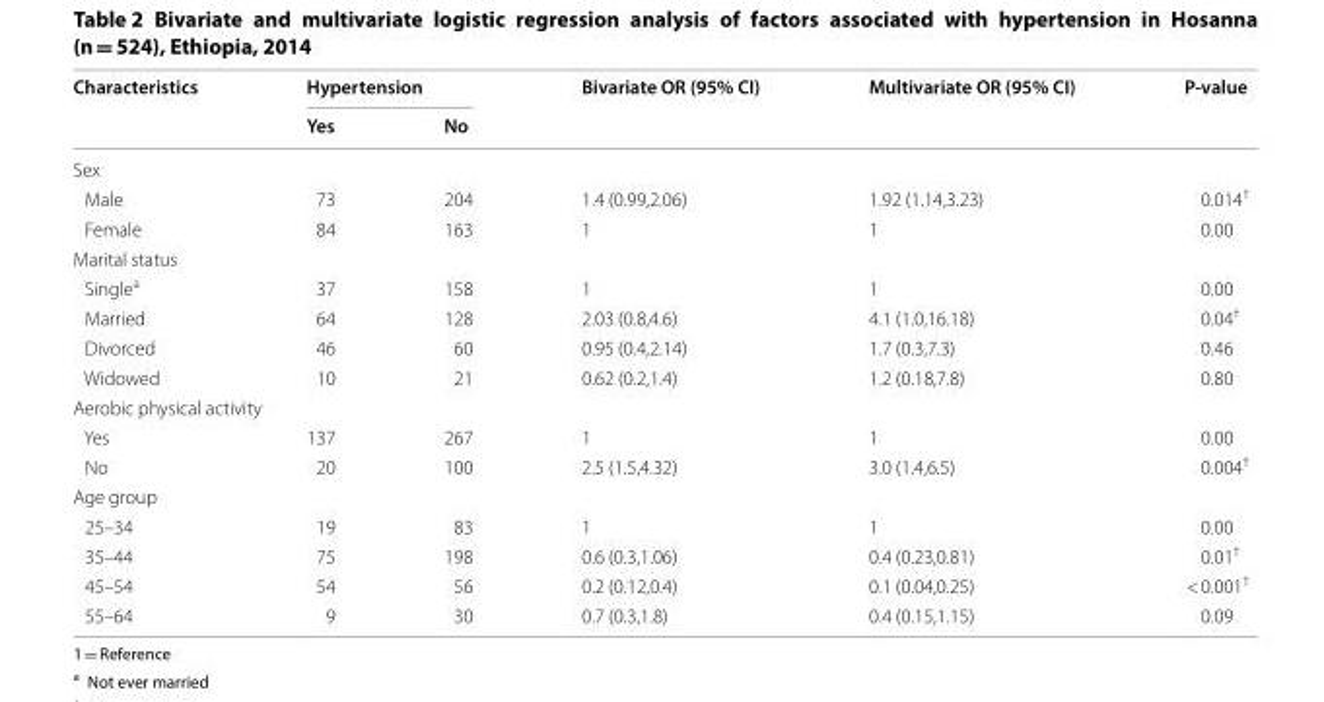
<table><thead><tr><td rowspan="2">Characteristics</td><td colspan="2">Hypertension</td><td rowspan="2">Bivariate OR (95% CI)</td><td rowspan="2">Multivariate OR (95% CI)</td><td rowspan="2">P-value</td></tr><tr><td>Yes</td><td>No</td></tr></thead><tbody><tr><td colspan="6">Sex</td></tr><tr><td>Male</td><td>73</td><td>204</td><td>1.4 (0.99,2.06)</td><td>1.92 (1.14,3.23)</td><td>0.014<sup>†</sup></td></tr><tr><td>Female</td><td>84</td><td>163</td><td>1</td><td>1</td><td>0.00</td></tr><tr><td colspan="6">Marital status</td></tr><tr><td>Single<sup>a</sup></td><td>37</td><td>158</td><td>1</td><td>1</td><td>0.00</td></tr><tr><td>Married</td><td>64</td><td>128</td><td>2.03 (0.8,4.6)</td><td>4.1 (1.0,16.18)</td><td>0.04<sup>†</sup></td></tr><tr><td>Divorced</td><td>46</td><td>60</td><td>0.95 (0.4,2.14)</td><td>1.7 (0.3,7.3)</td><td>0.46</td></tr><tr><td>Widowed</td><td>10</td><td>21</td><td>0.62 (0.2,1.4)</td><td>1.2 (0.18,7.8)</td><td>0.80</td></tr><tr><td colspan="6">Aerobic physical activity</td></tr><tr><td>Yes</td><td>137</td><td>267</td><td>1</td><td>1</td><td>0.00</td></tr><tr><td>No</td><td>20</td><td>100</td><td>2.5 (1.5,4.32)</td><td>3.0 (1.4,6.5)</td><td>0.004<sup>†</sup></td></tr><tr><td colspan="6">Age group</td></tr><tr><td>25–34</td><td>19</td><td>83</td><td>1</td><td>1</td><td>0.00</td></tr><tr><td>35–44</td><td>75</td><td>198</td><td>0.6 (0.3,1.06)</td><td>0.4 (0.23,0.81)</td><td>0.01<sup>†</sup></td></tr><tr><td>45–54</td><td>54</td><td>56</td><td>0.2 (0.12,0.4)</td><td>0.1 (0.04,0.25)</td><td>&lt; 0.001<sup>†</sup></td></tr><tr><td>55–64</td><td>9</td><td>30</td><td>0.7 (0.3,1.8)</td><td>0.4 (0.15,1.15)</td><td>0.09</td></tr></tbody></table>